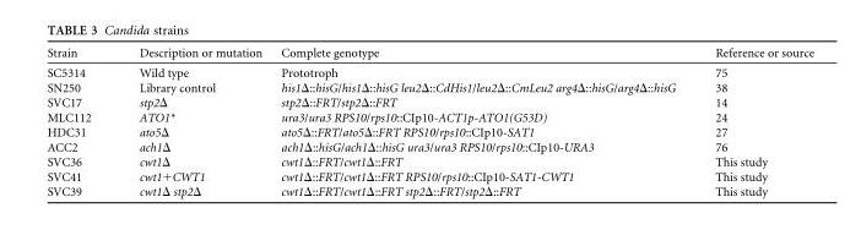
<table><thead><tr><td>Strain</td><td>Description or mutation</td><td>Complete genotype</td><td>Reference or source</td></tr></thead><tbody><tr><td>SC5314</td><td>Wild type</td><td>Prototroph</td><td>75</td></tr><tr><td>SN250</td><td>Library control</td><td>his1Δ::hisG/his1Δ::hisG leu2Δ::CdHis1/leu2Δ::CmLeu2 arg4Δ::hisG/arg4Δ::hisG</td><td>38</td></tr><tr><td>SVC17</td><td>stp2Δ</td><td>stp2Δ::FRT/stp2Δ::FRT</td><td>14</td></tr><tr><td>MLC112</td><td>ATO1*</td><td>ura3/ura3 RPS10/rps10::CIp10-ACT1p-ATO1(G53D)</td><td>24</td></tr><tr><td>HDC31</td><td>ato5Δ</td><td>ato5Δ::FRT/ato5Δ::FRT RPS10/rps10::CIp10-SAT1</td><td>27</td></tr><tr><td>ACC2</td><td>ach1Δ</td><td>ach1Δ::hisG/ach1Δ::hisG ura3/ura3 RPS10/rps10::CIp10-URA3</td><td>76</td></tr><tr><td>SVC36</td><td>cwt1Δ</td><td>cwt1Δ::FRT/cwt1Δ::FRT</td><td>This study</td></tr><tr><td>SVC41</td><td>cwt1+CWT1</td><td>cwt1Δ::FRT/cwt1Δ::FRT RPS10/rps10::CIp10-SAT1-CWT1</td><td>This study</td></tr><tr><td>SVC39</td><td>cwt1Δ stp2Δ</td><td>cwt1Δ::FRT/cwt1Δ::FRT stp2Δ::FRT/stp2Δ::FRT</td><td>This study</td></tr></tbody></table>